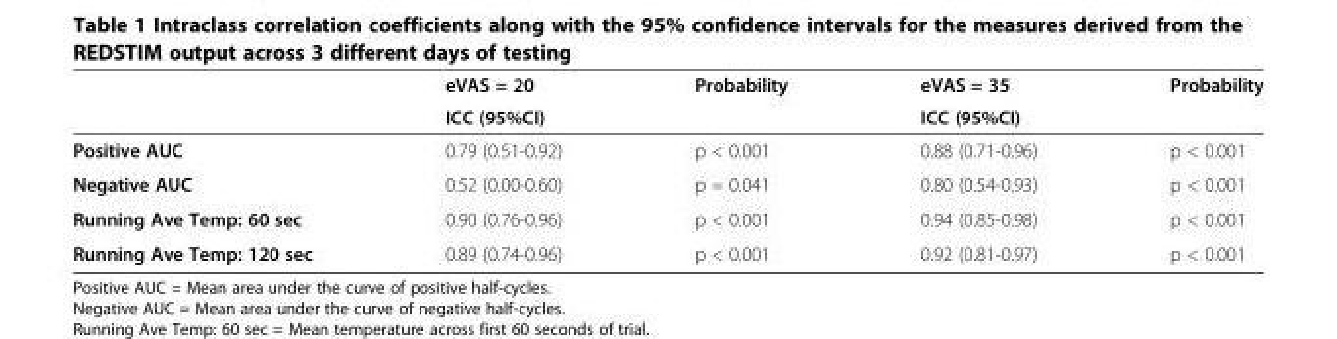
<table><thead><tr><td rowspan="2"></td><td rowspan="2">eVAS = 20 ICC (95%CI)</td><td rowspan="2">Probability</td><td rowspan="2">eVAS = 35 ICC (95%CI)</td><td rowspan="2">Probability</td></tr><tr></tr></thead><tbody><tr><td>Positive AUC</td><td>0.79 (0.51-0.92)</td><td>p &lt; 0.001</td><td>0.88 (0.71-0.96)</td><td>p &lt; 0.001</td></tr><tr><td>Negative AUC</td><td>0.52 (0.00-0.60)</td><td>p = 0.041</td><td>0.80 (0.54-0.93)</td><td>p &lt; 0.001</td></tr><tr><td>Running Ave Temp: 60 sec</td><td>0.90 (0.76-0.96)</td><td>p &lt; 0.001</td><td>0.94 (0.85-0.98)</td><td>p &lt; 0.001</td></tr><tr><td>Running Ave Temp: 120 sec</td><td>0.89 (0.74-0.96)</td><td>p &lt; 0.001</td><td>0.92 (0.81-0.97)</td><td>p &lt; 0.001</td></tr></tbody></table>